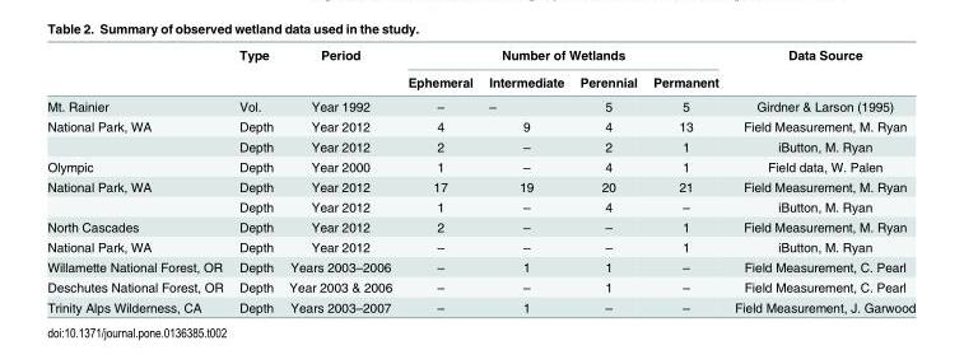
<table><thead><tr><td rowspan="2"></td><td rowspan="2">Type</td><td rowspan="2">Period</td><td colspan="4">Number of Wetlands</td><td rowspan="2">Data Source</td></tr><tr><td>Ephemeral</td><td>Intermediate</td><td>Perennial</td><td>Permanent</td></tr></thead><tbody><tr><td>Mt. Rainier</td><td>Vol.</td><td>Year 1992</td><td>–</td><td>–</td><td>5</td><td>5</td><td>Girdner &amp; Larson (1995)</td></tr><tr><td rowspan="2">National Park, WA</td><td>Depth</td><td>Year 2012</td><td>4</td><td>9</td><td>4</td><td>13</td><td>Field Measurement, M. Ryan</td></tr><tr><td>Depth</td><td>Year 2012</td><td>2</td><td>–</td><td>2</td><td>1</td><td>iButton, M. Ryan</td></tr><tr><td>Olympic</td><td>Depth</td><td>Year 2000</td><td>1</td><td>–</td><td>4</td><td>1</td><td>Field data, W. Palen</td></tr><tr><td rowspan="2">National Park, WA</td><td>Depth</td><td>Year 2012</td><td>17</td><td>19</td><td>20</td><td>21</td><td>Field Measurement, M. Ryan</td></tr><tr><td>Depth</td><td>Year 2012</td><td>1</td><td>–</td><td>4</td><td>–</td><td>iButton, M. Ryan</td></tr><tr><td>North Cascades</td><td>Depth</td><td>Year 2012</td><td>2</td><td>–</td><td>–</td><td>1</td><td>Field Measurement, M. Ryan</td></tr><tr><td>National Park, WA</td><td>Depth</td><td>Year 2012</td><td>–</td><td>–</td><td>–</td><td>1</td><td>iButton, M. Ryan</td></tr><tr><td>Willamette National Forest, OR</td><td>Depth</td><td>Years 2003–2006</td><td>–</td><td>1</td><td>1</td><td>–</td><td>Field Measurement, C. Pearl</td></tr><tr><td>Deschutes National Forest, OR</td><td>Depth</td><td>Year 2003 &amp; 2006</td><td>–</td><td>–</td><td>1</td><td>–</td><td>Field Measurement, C. Pearl</td></tr><tr><td>Trinity Alps Wilderness, CA</td><td>Depth</td><td>Years 2003–2007</td><td>–</td><td>1</td><td>–</td><td>–</td><td>Field Measurement, J. Garwood</td></tr></tbody></table>